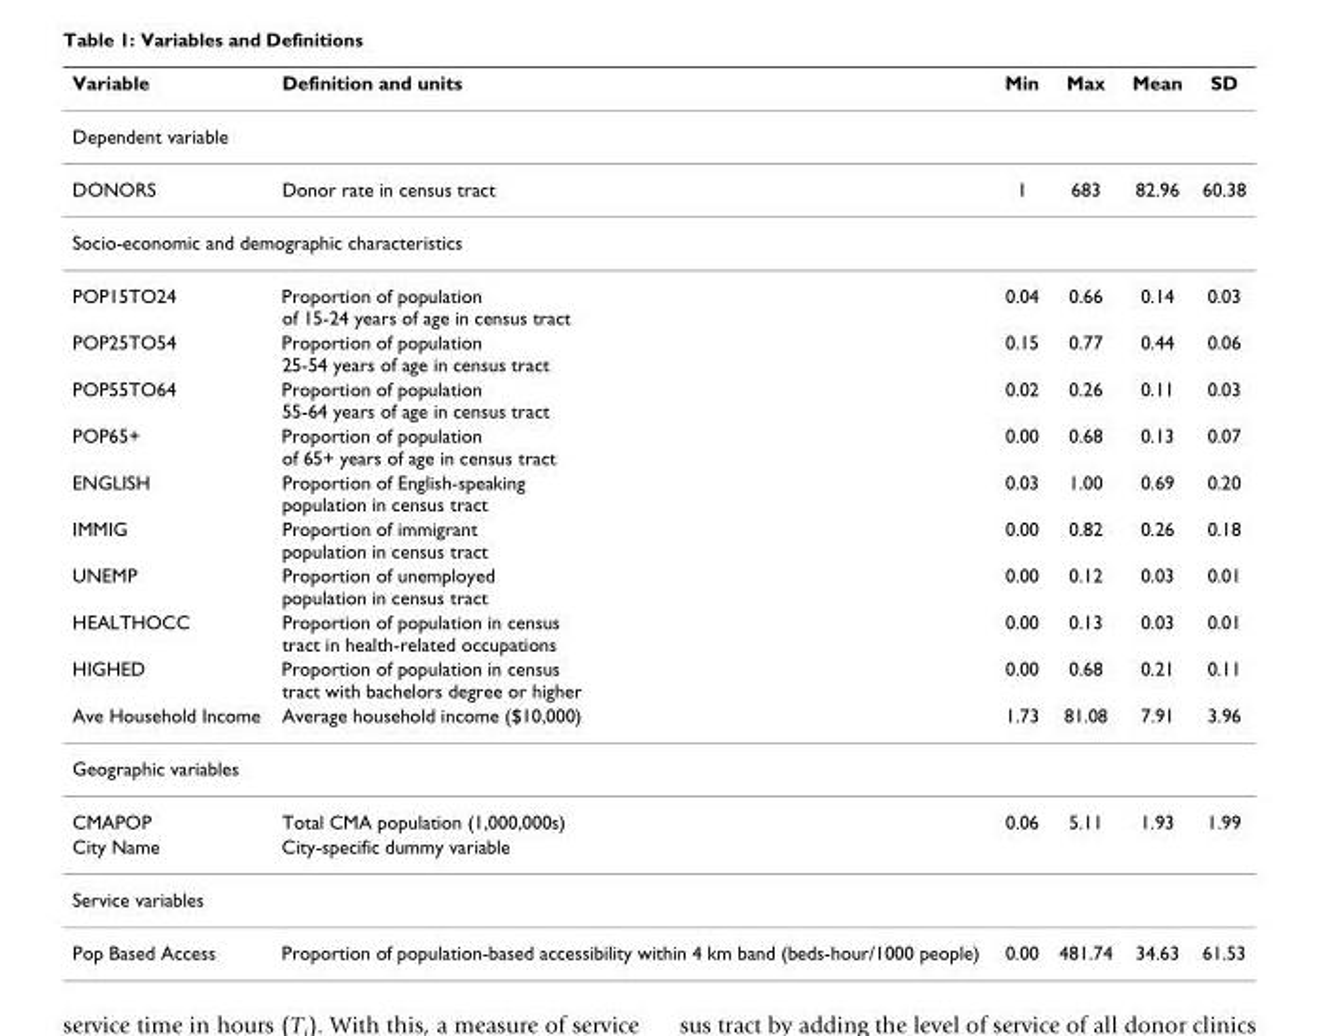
<table><thead><tr><td>Variable</td><td>Definition and units</td><td>Min</td><td>Max</td><td>Mean</td><td>SD</td></tr></thead><tbody><tr><td colspan="6">Dependent variable</td></tr><tr><td>DONORS</td><td>Donor rate in census tract</td><td>1</td><td>683</td><td>82.96</td><td>60.38</td></tr><tr><td colspan="6">Socio-economic and demographic characteristics</td></tr><tr><td>POP15TO24</td><td>Proportion of population of 15-24 years of age in census tract</td><td>0.04</td><td>0.66</td><td>0.14</td><td>0.03</td></tr><tr><td>POP25TO54</td><td>Proportion of population 25-54 years of age in census tract</td><td>0.15</td><td>0.77</td><td>0.44</td><td>0.06</td></tr><tr><td>POP55TO64</td><td>Proportion of population 55-64 years of age in census tract</td><td>0.02</td><td>0.26</td><td>0.11</td><td>0.03</td></tr><tr><td>POP65+</td><td>Proportion of population of 65+ years of age in census tract</td><td>0.00</td><td>0.68</td><td>0.13</td><td>0.07</td></tr><tr><td>ENGLISH</td><td>Proportion of English-speaking population in census tract</td><td>0.03</td><td>1.00</td><td>0.69</td><td>0.20</td></tr><tr><td>IMMIG</td><td>Proportion of immigrant population in census tract</td><td>0.00</td><td>0.82</td><td>0.26</td><td>0.18</td></tr><tr><td>UNEMP</td><td>Proportion of unemployed population in census tract</td><td>0.00</td><td>0.12</td><td>0.03</td><td>0.01</td></tr><tr><td>HEALTHOCC</td><td>Proportion of population in census tract in health-related occupations</td><td>0.00</td><td>0.13</td><td>0.03</td><td>0.01</td></tr><tr><td>HIGHED</td><td>Proportion of population in census tract with bachelors degree or higher</td><td>0.00</td><td>0.68</td><td>0.21</td><td>0.11</td></tr><tr><td>Ave Household Income</td><td>Average household income ($10,000)</td><td>1.73</td><td>81.08</td><td>7.91</td><td>3.96</td></tr><tr><td colspan="6">Geographic variables</td></tr><tr><td>CMAPOP</td><td>Total CMA population (1,000,000s)</td><td>0.06</td><td>5.11</td><td>1.93</td><td>1.99</td></tr><tr><td>City Name</td><td>City-specific dummy variable</td><td></td><td></td><td></td><td></td></tr><tr><td colspan="6">Service variables</td></tr><tr><td>Pop Based Access</td><td>Proportion of population-based accessibility within 4 km band (beds-hour/1000 people)</td><td>0.00</td><td>481.74</td><td>34.63</td><td>61.53</td></tr></tbody></table>